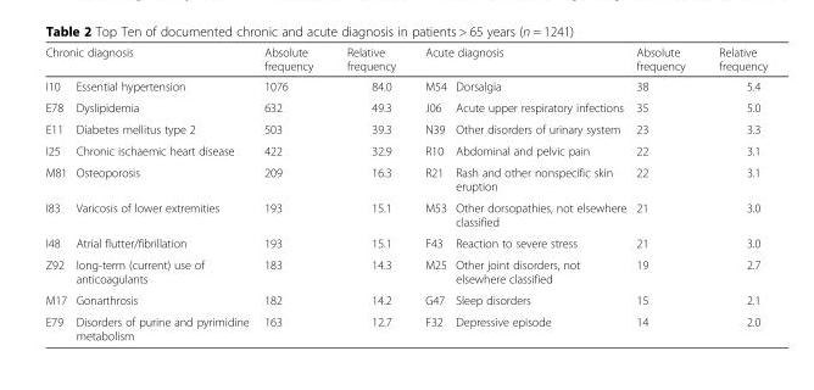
<table><thead><tr><td colspan="2">Chronic diagnosis</td><td rowspan="2">Absolute frequency 1076</td><td rowspan="2">Relative frequency 84.0</td><td colspan="2">Acute diagnosis</td><td rowspan="2">Absolute frequency 38</td><td rowspan="2">Relative frequency 5.4</td></tr><tr><td>I10</td><td>Essential hypertension</td><td>M54</td><td>Dorsalgia</td></tr></thead><tbody><tr><td>E78</td><td>Dyslipidemia</td><td>632</td><td>49.3</td><td>J06</td><td>Acute upper respiratory infections</td><td>35</td><td>5.0</td></tr><tr><td>E11</td><td>Diabetes mellitus type 2</td><td>503</td><td>39.3</td><td>N39</td><td>Other disorders of urinary system</td><td>23</td><td>3.3</td></tr><tr><td>I25</td><td>Chronic ischaemic heart disease</td><td>422</td><td>32.9</td><td>R10</td><td>Abdominal and pelvic pain</td><td>22</td><td>3.1</td></tr><tr><td>M81</td><td>Osteoporosis</td><td>209</td><td>16.3</td><td>R21</td><td>Rash and other nonspecific skin eruption</td><td>22</td><td>3.1</td></tr><tr><td>I83</td><td>Varicosis of lower extremities</td><td>193</td><td>15.1</td><td>M53</td><td>Other dorsopathies, not elsewhere classified</td><td>21</td><td>3.0</td></tr><tr><td>I48</td><td>Atrial flutter/fibrillation</td><td>193</td><td>15.1</td><td>F43</td><td>Reaction to severe stress</td><td>21</td><td>3.0</td></tr><tr><td>Z92</td><td>long-term (current) use of anticoagulants</td><td>183</td><td>14.3</td><td>M25</td><td>Other joint disorders, not elsewhere classified</td><td>19</td><td>2.7</td></tr><tr><td>M17</td><td>Gonarthrosis</td><td>182</td><td>14.2</td><td>G47</td><td>Sleep disorders</td><td>15</td><td>2.1</td></tr><tr><td>E79</td><td>Disorders of purine and pyrimidine metabolism</td><td>163</td><td>12.7</td><td>F32</td><td>Depressive episode</td><td>14</td><td>2.0</td></tr></tbody></table>